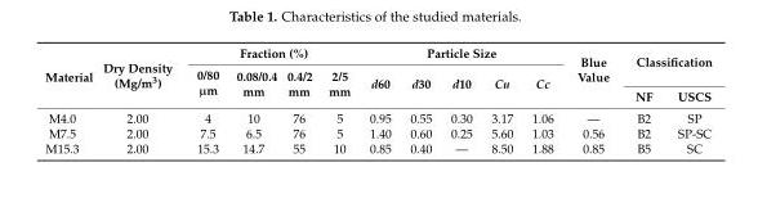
<table><thead><tr><td rowspan="3">Material</td><td rowspan="3">Dry Density (Mg/m<sup>3</sup>)</td><td colspan="4">Fraction (%)</td><td colspan="5">Particle Size</td><td rowspan="3">Blue Value</td><td rowspan="2" colspan="2">Classification</td></tr><tr><td rowspan="2">0/80 µm</td><td rowspan="2">0.08/0.4 mm</td><td rowspan="2">0.4/2 mm</td><td rowspan="2">2/5 mm</td><td rowspan="2">d60</td><td rowspan="2">d30</td><td rowspan="2">d10</td><td rowspan="2">Cu</td><td rowspan="2">Cc</td></tr><tr><td>NF</td><td>USCS</td></tr></thead><tbody><tr><td>M4.0</td><td>2.00</td><td>4</td><td>10</td><td>76</td><td>5</td><td>0.95</td><td>0.55</td><td>0.30</td><td>3.17</td><td>1.06</td><td>—</td><td>B2</td><td>SP</td></tr><tr><td>M7.5</td><td>2.00</td><td>7.5</td><td>6.5</td><td>76</td><td>5</td><td>1.40</td><td>0.60</td><td>0.25</td><td>5.60</td><td>1.03</td><td>0.56</td><td>B2</td><td>SP-SC</td></tr><tr><td>M15.3</td><td>2.00</td><td>15.3</td><td>14.7</td><td>55</td><td>10</td><td>0.85</td><td>0.40</td><td>—</td><td>8.50</td><td>1.88</td><td>0.85</td><td>B5</td><td>SC</td></tr></tbody></table>